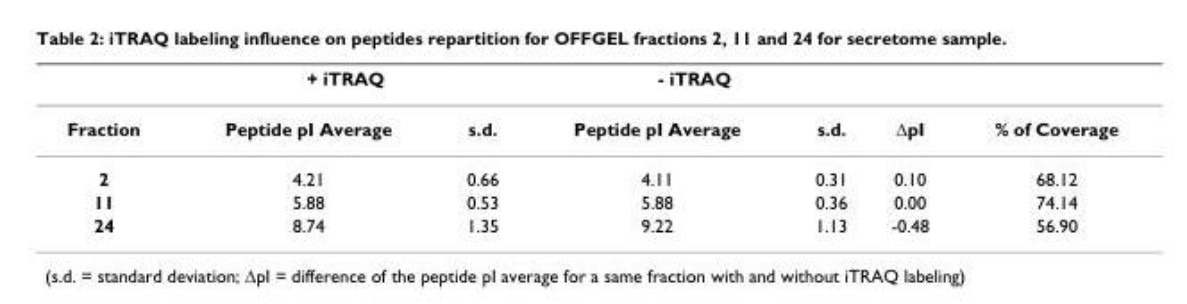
<table><thead><tr><td rowspan="2">Fraction</td><td colspan="2">+ iTRAQ</td><td colspan="2">- iTRAQ</td><td rowspan="2">∆pI</td><td rowspan="2">% of Coverage</td></tr><tr><td>Peptide pI Average</td><td>s.d.</td><td>Peptide pI Average</td><td>s.d.</td></tr></thead><tbody><tr><td>2</td><td>4.21</td><td>0.66</td><td>4.11</td><td>0.31</td><td>0.10</td><td>68.12</td></tr><tr><td>11</td><td>5.88</td><td>0.53</td><td>5.88</td><td>0.36</td><td>0.00</td><td>74.14</td></tr><tr><td>24</td><td>8.74</td><td>1.35</td><td>9.22</td><td>1.13</td><td>-0.48</td><td>56.90</td></tr></tbody></table>